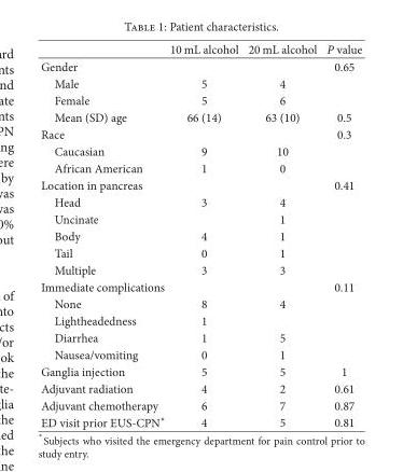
<table><thead><tr><td></td><td>10 mL alcohol</td><td>20 mL alcohol</td><td>P value</td></tr></thead><tbody><tr><td>Gender</td><td></td><td></td><td>0.65</td></tr><tr><td>Male</td><td>5</td><td>4</td><td></td></tr><tr><td>Female</td><td>5</td><td>6</td><td></td></tr><tr><td>Mean (SD) age</td><td>66 (14)</td><td>63 (10)</td><td>0.5</td></tr><tr><td>Race</td><td></td><td></td><td>0.3</td></tr><tr><td>Caucasian</td><td>9</td><td>10</td><td></td></tr><tr><td>African American</td><td>1</td><td>0</td><td></td></tr><tr><td>Location in pancreas</td><td></td><td></td><td>0.41</td></tr><tr><td>Head</td><td>3</td><td>4</td><td></td></tr><tr><td>Uncinate</td><td></td><td>1</td><td></td></tr><tr><td>Body</td><td>4</td><td>1</td><td></td></tr><tr><td>Tail</td><td>0</td><td>1</td><td></td></tr><tr><td>Multiple</td><td>3</td><td>3</td><td></td></tr><tr><td>Immediate complications</td><td></td><td></td><td>0.11</td></tr><tr><td>None</td><td>8</td><td>4</td><td></td></tr><tr><td>Lightheadedness</td><td>1</td><td></td><td></td></tr><tr><td>Diarrhea</td><td>1</td><td>5</td><td></td></tr><tr><td>Nausea/vomiting</td><td>0</td><td>1</td><td></td></tr><tr><td>Ganglia injection</td><td>5</td><td>5</td><td>1</td></tr><tr><td>Adjuvant radiation</td><td>4</td><td>2</td><td>0.61</td></tr><tr><td>Adjuvant chemotherapy</td><td>6</td><td>7</td><td>0.87</td></tr><tr><td>ED visit prior EUS-CPN∗</td><td>4</td><td>5</td><td>0.81</td></tr></tbody></table>